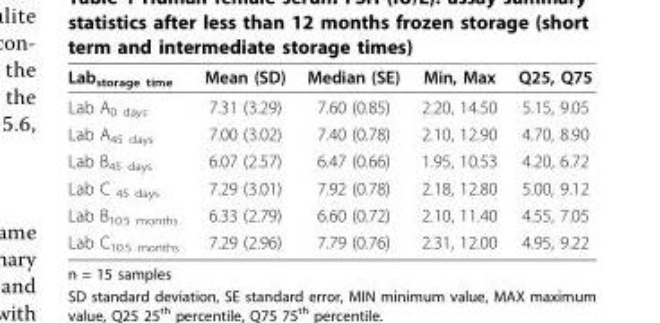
<table><thead><tr><td>Lab<sub>storage time</sub></td><td>Mean (SD)</td><td>Median (SE)</td><td>Min, Max</td><td>Q25, Q75</td></tr></thead><tbody><tr><td>Lab A<sub>0 days</sub></td><td>7.31 (3.29)</td><td>7.60 (0.85)</td><td>2.20, 14.50</td><td>5.15, 9.05</td></tr><tr><td>Lab A<sub>45 days</sub></td><td>7.00 (3.02)</td><td>7.40 (0.78)</td><td>2.10, 12.90</td><td>4.70, 8.90</td></tr><tr><td>Lab B<sub>45 days</sub></td><td>6.07 (2.57)</td><td>6.47 (0.66)</td><td>1.95, 10.53</td><td>4.20, 6.72</td></tr><tr><td>Lab C <sub>45 days</sub></td><td>7.29 (3.01)</td><td>7.92 (0.78)</td><td>2.18, 12.80</td><td>5.00, 9.12</td></tr><tr><td>Lab B<sub>10.5 months</sub></td><td>6.33 (2.79)</td><td>6.60 (0.72)</td><td>2.10, 11.40</td><td>4.55, 7.05</td></tr><tr><td>Lab C<sub>10.5 months</sub></td><td>7.29 (2.96)</td><td>7.79 (0.76)</td><td>2.31, 12.00</td><td>4.95, 9.22</td></tr></tbody></table>